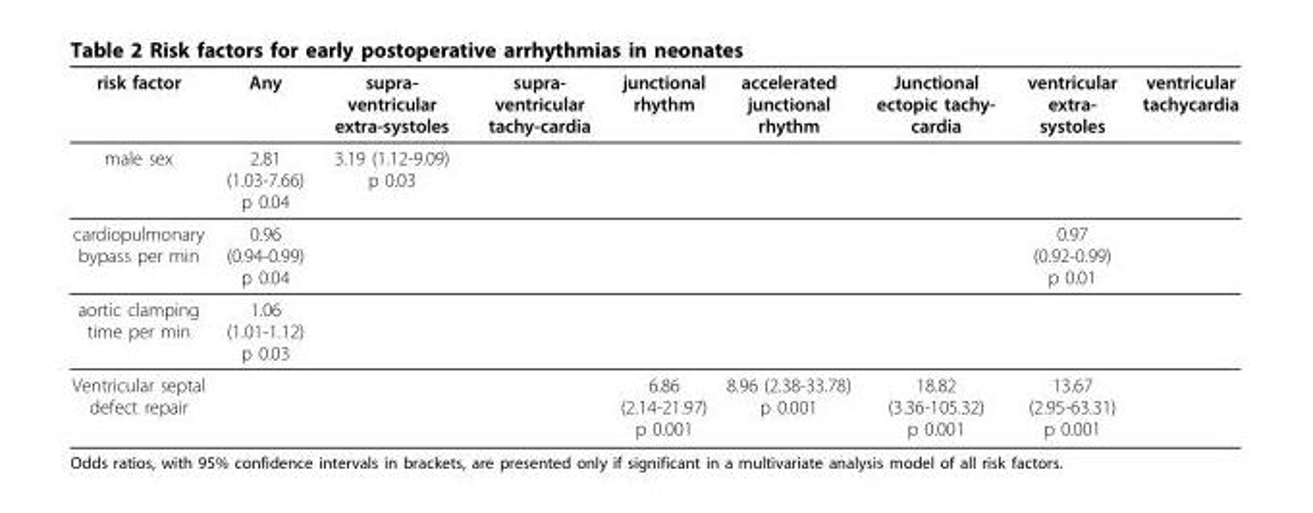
<table><thead><tr><td>risk factor</td><td>Any</td><td>supra- ventricular extra-systoles</td><td>supra- ventricular tachy-cardia</td><td>junctional rhythm</td><td>accelerated junctional rhythm</td><td>Junctional ectopic tachy- cardia</td><td>ventricular extra- systoles</td><td>ventricular tachycardia</td></tr></thead><tbody><tr><td>male sex</td><td>2.81 (1.03-7.66) p 0.04</td><td>3.19 (1.12-9.09) p 0.03</td><td></td><td></td><td></td><td></td><td></td><td></td></tr><tr><td>cardiopulmonary bypass per min</td><td>0.96 (0.94-0.99) p 0.04</td><td></td><td></td><td></td><td></td><td></td><td>0.97 (0.92-0.99) p 0.01</td><td></td></tr><tr><td>aortic clamping time per min</td><td>1.06 (1.01-1.12) p 0.03</td><td></td><td></td><td></td><td></td><td></td><td></td><td></td></tr><tr><td>Ventricular septal defect repair</td><td></td><td></td><td></td><td>6.86 (2.14-21.97) p 0.001</td><td>8.96 (2.38-33.78) p 0.001</td><td>18.82 (3.36-105.32) p 0.001</td><td>13.67 (2.95-63.31) p 0.001</td><td></td></tr></tbody></table>